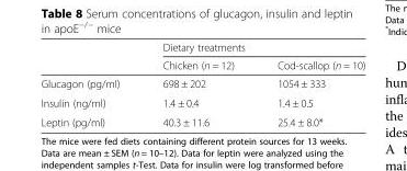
<table><thead><tr><td rowspan="2"></td><td colspan="2">Dietary treatments</td></tr><tr><td>Chicken (n = 12)</td><td>Cod-scallop (n = 10)</td></tr></thead><tbody><tr><td>Glucagon (pg/ml)</td><td>698 ± 202</td><td>1054 ± 333</td></tr><tr><td>Insulin (ng/ml)</td><td>1.4 ± 0.4</td><td>1.4 ± 0.5</td></tr><tr><td>Leptin (pg/ml)</td><td>40.3 ± 11.6</td><td>25.4 ± 8.0*</td></tr></tbody></table>